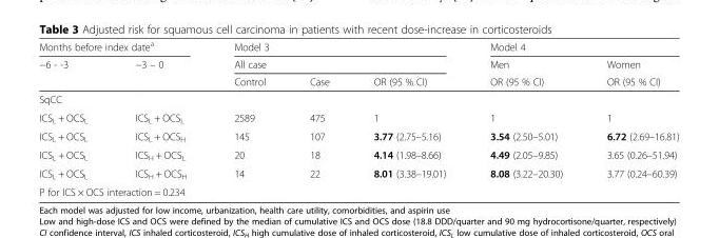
<table><thead><tr><td colspan="2">Months before index date<sup>a</sup></td><td rowspan="2" colspan="3">Model 3 All case</td><td colspan="2">Model 4</td></tr><tr><td rowspan="2">−6 - -3</td><td rowspan="2">−3 – 0</td><td rowspan="2">Men OR (95 % CI)</td><td rowspan="2">Women OR (95 % CI)</td></tr><tr><td>Control</td><td>Case</td><td>OR (95 % CI)</td></tr></thead><tbody><tr><td colspan="7">SqCC</td></tr><tr><td>ICS<sub>L</sub> + OCS<sub>L</sub></td><td>ICS<sub>L</sub> + OCS<sub>L</sub></td><td>2589</td><td>475</td><td>1</td><td>1</td><td>1</td></tr><tr><td>ICS<sub>L</sub> + OCS<sub>L</sub></td><td>ICS<sub>L</sub> + OCS<sub>H</sub></td><td>145</td><td>107</td><td>3.77 (2.75–5.16)</td><td>3.54 (2.50–5.01)</td><td>6.72 (2.69–16.81)</td></tr><tr><td>ICS<sub>L</sub> + OCS<sub>L</sub></td><td>ICS<sub>H</sub> + OCS<sub>L</sub></td><td>20</td><td>18</td><td>4.14 (1.98–8.66)</td><td>4.49 (2.05–9.85)</td><td>3.65 (0.26–51.94)</td></tr><tr><td>ICS<sub>L</sub> + OCS<sub>L</sub></td><td>ICS<sub>H</sub> + OCS<sub>H</sub></td><td>14</td><td>22</td><td>8.01 (3.38–19.01)</td><td>8.08 (3.22–20.30)</td><td>3.77 (0.24–60.39)</td></tr><tr><td colspan="3">P for ICS × OCS interaction = 0.234</td><td></td><td></td><td></td><td></td></tr></tbody></table>